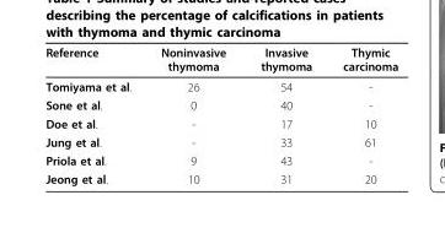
<table><thead><tr><td>Reference</td><td>Noninvasive thymoma</td><td>Invasive thymoma</td><td>Thymic carcinoma</td></tr></thead><tbody><tr><td>Tomiyama et al.</td><td>26</td><td>54</td><td>-</td></tr><tr><td>Sone et al.</td><td>0</td><td>40</td><td>-</td></tr><tr><td>Doe et al.</td><td>-</td><td>17</td><td>10</td></tr><tr><td>Jung et al.</td><td>-</td><td>33</td><td>61</td></tr><tr><td>Priola et al.</td><td>9</td><td>43</td><td>-</td></tr><tr><td>Jeong et al.</td><td>10</td><td>31</td><td>20</td></tr></tbody></table>